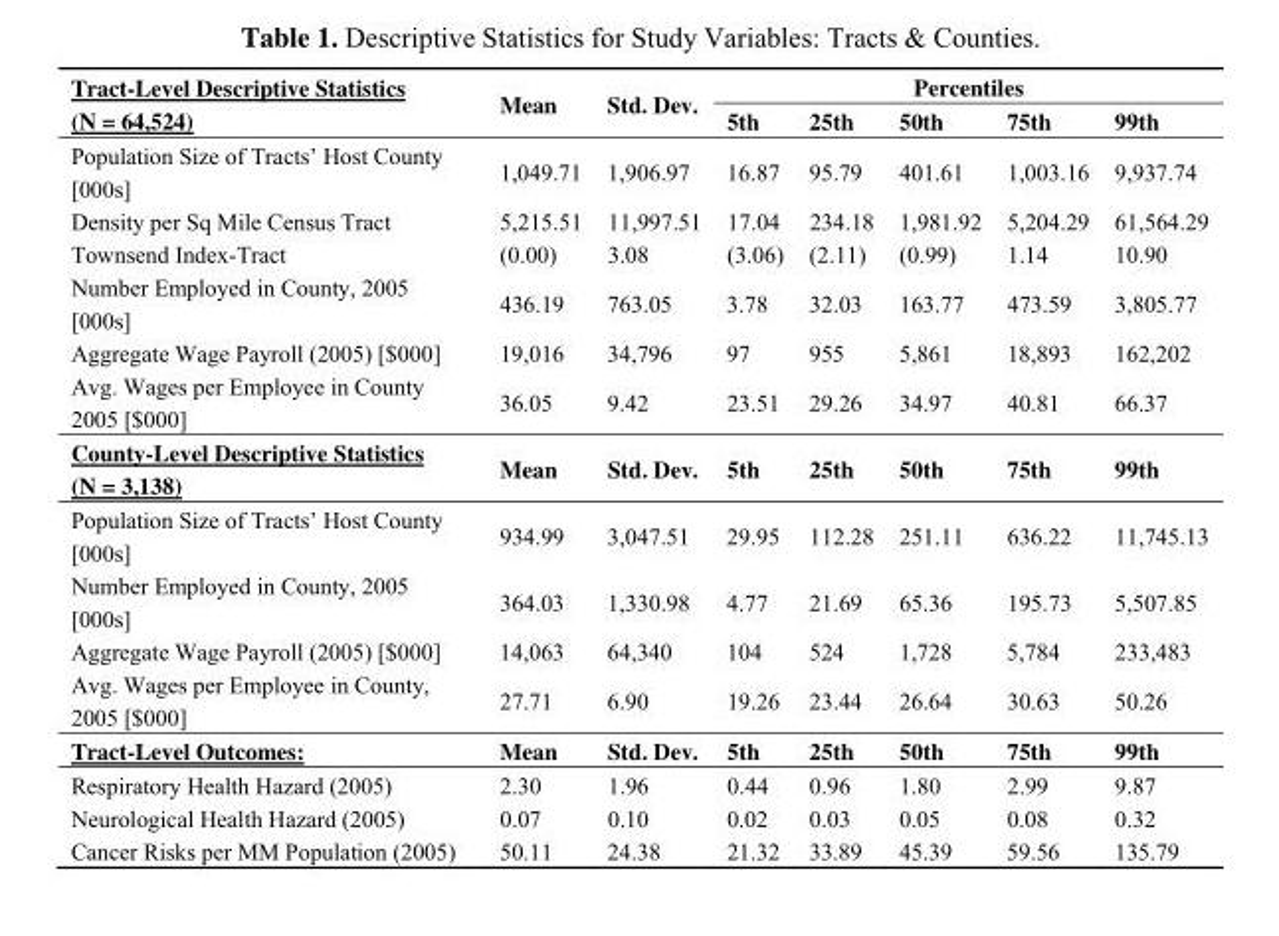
<table><thead><tr><td rowspan="2">Tract-Level Descriptive Statistics (N = 64,524)</td><td rowspan="2">Mean</td><td rowspan="2">Std. Dev.</td><td colspan="5">Percentiles</td></tr><tr><td>5th</td><td>25th</td><td>50th</td><td>75th</td><td>99th</td></tr></thead><tbody><tr><td>Population Size of Tracts’ Host County [000s]</td><td>1,049.71</td><td>1,906.97</td><td>16.87</td><td>95.79</td><td>401.61</td><td>1,003.16</td><td>9,937.74</td></tr><tr><td>Density per Sq Mile Census Tract</td><td>5,215.51</td><td>11,997.51</td><td>17.04</td><td>234.18</td><td>1,981.92</td><td>5,204.29</td><td>61,564.29</td></tr><tr><td>Townsend Index-Tract</td><td>(0.00)</td><td>3.08</td><td>(3.06)</td><td>(2.11)</td><td>(0.99)</td><td>1.14</td><td>10.90</td></tr><tr><td>Number Employed in County, 2005 [000s]</td><td>436.19</td><td>763.05</td><td>3.78</td><td>32.03</td><td>163.77</td><td>473.59</td><td>3,805.77</td></tr><tr><td>Aggregate Wage Payroll (2005) [$000]</td><td>19,016</td><td>34,796</td><td>97</td><td>955</td><td>5,861</td><td>18,893</td><td>162,202</td></tr><tr><td>Avg. Wages per Employee in County 2005 [$000]</td><td>36.05</td><td>9.42</td><td>23.51</td><td>29.26</td><td>34.97</td><td>40.81</td><td>66.37</td></tr><tr><td>County-Level Descriptive Statistics (N = 3,138)</td><td>Mean</td><td>Std. Dev.</td><td>5th</td><td>25th</td><td>50th</td><td>75th</td><td>99th</td></tr><tr><td>Population Size of Tracts’ Host County [000s]</td><td>934.99</td><td>3,047.51</td><td>29.95</td><td>112.28</td><td>251.11</td><td>636.22</td><td>11,745.13</td></tr><tr><td>Number Employed in County, 2005 [000s]</td><td>364.03</td><td>1,330.98</td><td>4.77</td><td>21.69</td><td>65.36</td><td>195.73</td><td>5,507.85</td></tr><tr><td>Aggregate Wage Payroll (2005) [$000]</td><td>14,063</td><td>64,340</td><td>104</td><td>524</td><td>1,728</td><td>5,784</td><td>233,483</td></tr><tr><td>Avg. Wages per Employee in County, 2005 [$000]</td><td>27.71</td><td>6.90</td><td>19.26</td><td>23.44</td><td>26.64</td><td>30.63</td><td>50.26</td></tr><tr><td>Tract-Level Outcomes:</td><td>Mean</td><td>Std. Dev.</td><td>5th</td><td>25th</td><td>50th</td><td>75th</td><td>99th</td></tr><tr><td>Respiratory Health Hazard (2005)</td><td>2.30</td><td>1.96</td><td>0.44</td><td>0.96</td><td>1.80</td><td>2.99</td><td>9.87</td></tr><tr><td>Neurological Health Hazard (2005)</td><td>0.07</td><td>0.10</td><td>0.02</td><td>0.03</td><td>0.05</td><td>0.08</td><td>0.32</td></tr><tr><td>Cancer Risks per MM Population (2005)</td><td>50.11</td><td>24.38</td><td>21.32</td><td>33.89</td><td>45.39</td><td>59.56</td><td>135.79</td></tr></tbody></table>